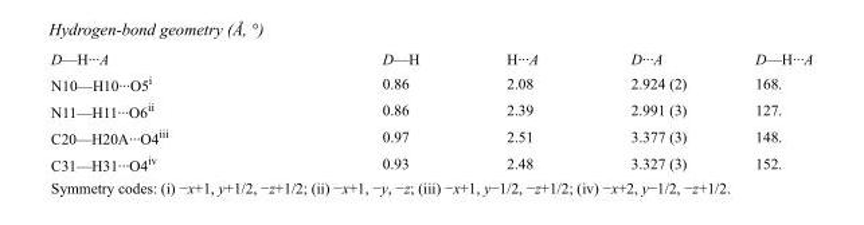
<table><tbody><tr><td>D—H···A</td><td>D—H</td><td>H···A</td><td>D···A</td><td>D—H···A</td></tr><tr><td>N10—H10···O5<sup>i</sup></td><td>0.86</td><td>2.08</td><td>2.924 (2)</td><td>168.</td></tr><tr><td>N11—H11···O6<sup>ii</sup></td><td>0.86</td><td>2.39</td><td>2.991 (3)</td><td>127.</td></tr><tr><td>C20—H20A···O4<sup>iii</sup></td><td>0.97</td><td>2.51</td><td>3.377 (3)</td><td>148.</td></tr><tr><td>C31—H31···O4<sup>iv</sup></td><td>0.93</td><td>2.48</td><td>3.327 (3)</td><td>152.</td></tr></tbody></table>